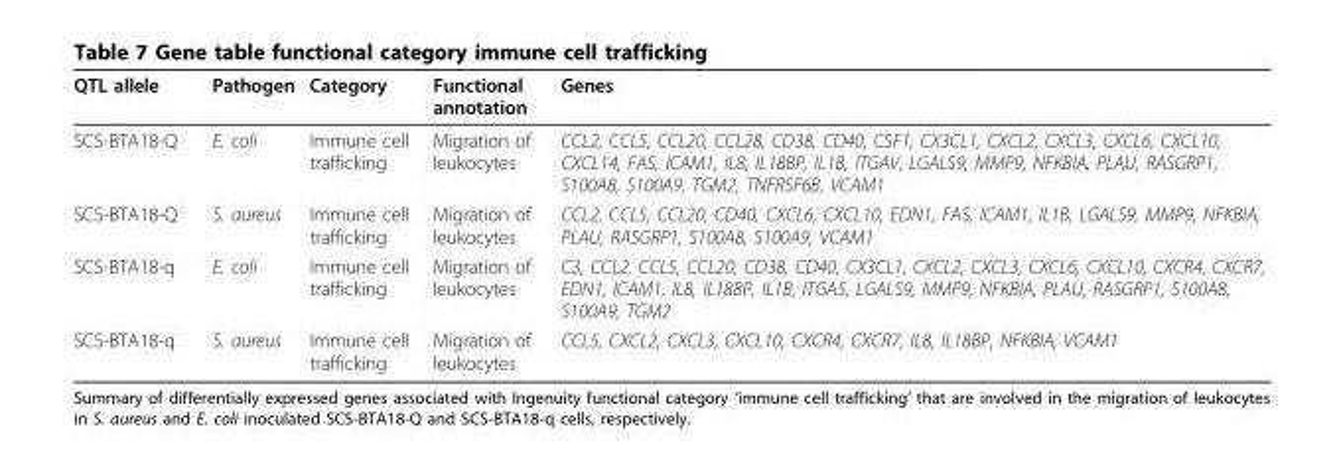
<table><thead><tr><td>QTL allele</td><td>Pathogen</td><td>Category</td><td>Functional annotation</td><td>Genes</td></tr></thead><tbody><tr><td>SCS-BTA18-Q</td><td>E. coli</td><td>Immune cell trafficking</td><td>Migration of leukocytes</td><td>CCL2, CCL5, CCL20, CCL28, CD38, CD40, CSF1, CX3CL1, CXCL2, CXCL3, CXCL6, CXCL10, CXCL14, FAS, ICAM1, IL8, IL18BP, IL1B, ITGAV, LGALS9, MMP9, NFKBIA, PLAU, RASGRP1, S100A8, S100A9, TGM2, TNFRSF6B, VCAM1</td></tr><tr><td>SCS-BTA18-Q</td><td>S. aureus</td><td>Immune cell trafficking</td><td>Migration of leukocytes</td><td>CCL2, CCL5, CCL20, CD40, CXCL6, CXCL10, EDN1, FAS, ICAM1, IL1B, LGALS9, MMP9, NFKBIA, PLAU, RASGRP1, S100A8, S100A9, VCAM1</td></tr><tr><td>SCS-BTA18-q</td><td>E. coli</td><td>Immune cell trafficking</td><td>Migration of leukocytes</td><td>C3, CCL2, CCL5, CCL20, CD38, CD40, CX3CL1, CXCL2, CXCL3, CXCL6, CXCL10, CXCR4, CXCR7, EDN1, ICAM1, IL8, IL18BP, IL1B, ITGA5, LGALS9, MMP9, NFKBIA, PLAU, RASGRP1, S100A8, S100A9, TGM2</td></tr><tr><td>SCS-BTA18-q</td><td>S. aureus</td><td>Immune cell trafficking</td><td>Migration of leukocytes</td><td>CCL5, CXCL2, CXCL3, CXCL10, CXCR4, CXCR7, IL8, IL18BP, NFKBIA, VCAM1</td></tr></tbody></table>